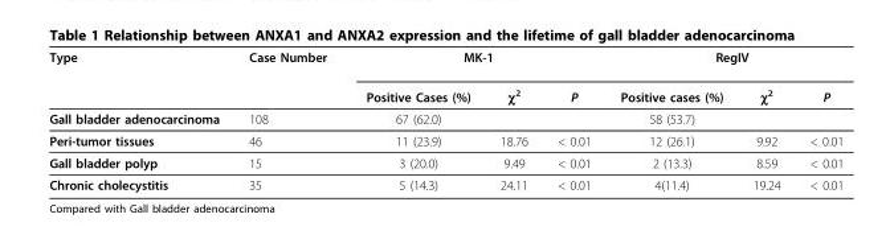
<table><thead><tr><td rowspan="2">Type</td><td rowspan="2">Case Number</td><td colspan="3">MK-1</td><td colspan="3">RegIV</td></tr><tr><td>Positive Cases (%)</td><td>χ<sup>2</sup></td><td>P</td><td>Positive cases (%)</td><td>χ<sup>2</sup></td><td>P</td></tr></thead><tbody><tr><td>Gall bladder adenocarcinoma</td><td>108</td><td>67 (62.0)</td><td></td><td></td><td>58 (53.7)</td><td></td><td></td></tr><tr><td>Peri-tumor tissues</td><td>46</td><td>11 (23.9)</td><td>18.76</td><td>&lt; 0.01</td><td>12 (26.1)</td><td>9.92</td><td>&lt; 0.01</td></tr><tr><td>Gall bladder polyp</td><td>15</td><td>3 (20.0)</td><td>9.49</td><td>&lt; 0.01</td><td>2 (13.3)</td><td>8.59</td><td>&lt; 0.01</td></tr><tr><td>Chronic cholecystitis</td><td>35</td><td>5 (14.3)</td><td>24.11</td><td>&lt; 0.01</td><td>4(11.4)</td><td>19.24</td><td>&lt; 0.01</td></tr></tbody></table>